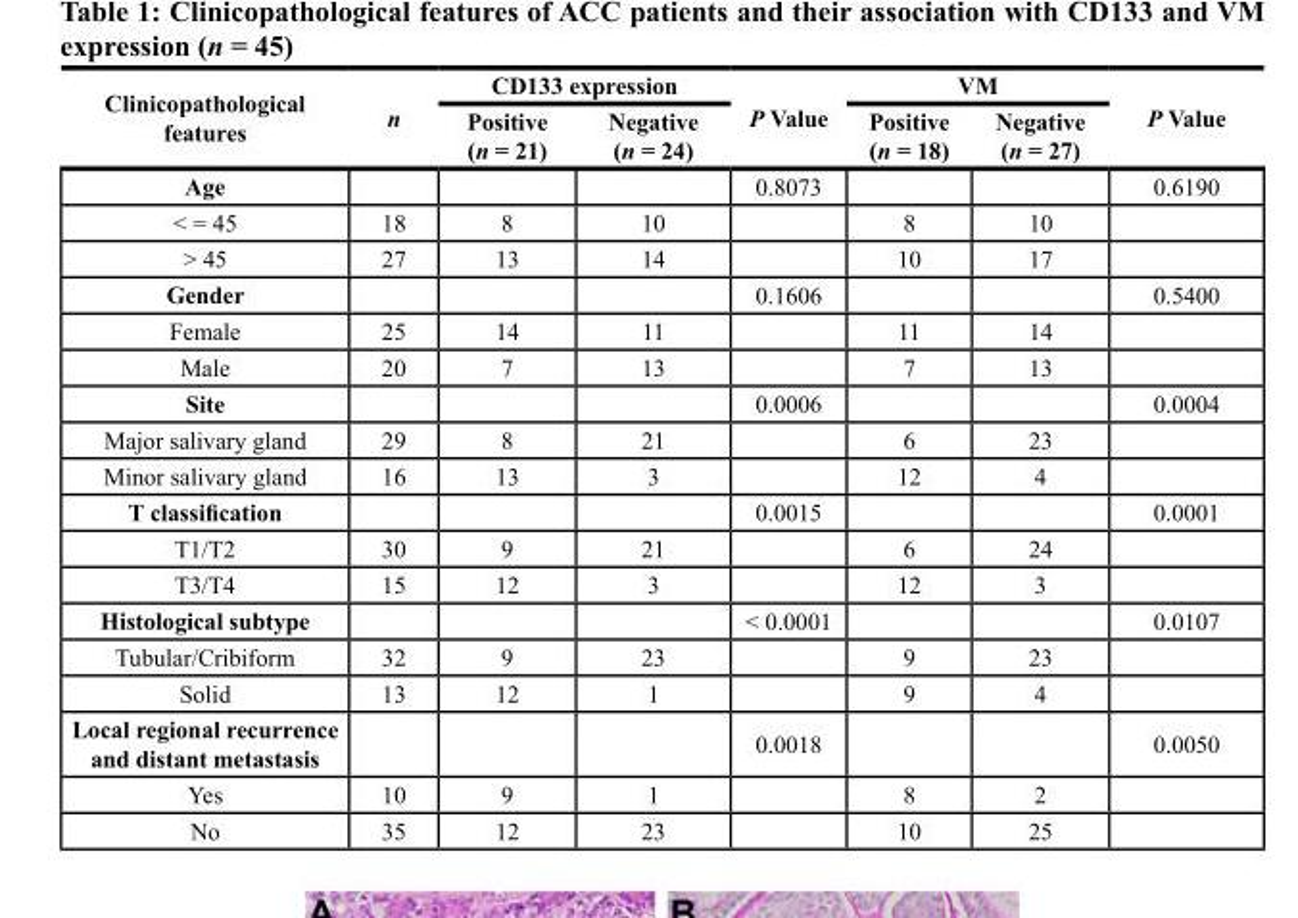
<table><thead><tr><td rowspan="2">Clinicopathological features</td><td rowspan="2">n</td><td colspan="2">CD133 expression</td><td rowspan="2">P Value</td><td colspan="2">VM</td><td rowspan="2">P Value</td></tr><tr><td>Positive (n = 21)</td><td>Negative (n = 24)</td><td>Positive (n = 18)</td><td>Negative (n = 27)</td></tr></thead><tbody><tr><td>Age</td><td></td><td></td><td></td><td>0.8073</td><td></td><td></td><td>0.6190</td></tr><tr><td>&lt; = 45</td><td>18</td><td>8</td><td>10</td><td></td><td>8</td><td>10</td><td></td></tr><tr><td>&gt; 45</td><td>27</td><td>13</td><td>14</td><td></td><td>10</td><td>17</td><td></td></tr><tr><td>Gender</td><td></td><td></td><td></td><td>0.1606</td><td></td><td></td><td>0.5400</td></tr><tr><td>Female</td><td>25</td><td>14</td><td>11</td><td></td><td>11</td><td>14</td><td></td></tr><tr><td>Male</td><td>20</td><td>7</td><td>13</td><td></td><td>7</td><td>13</td><td></td></tr><tr><td>Site</td><td></td><td></td><td></td><td>0.0006</td><td></td><td></td><td>0.0004</td></tr><tr><td>Major salivary gland</td><td>29</td><td>8</td><td>21</td><td></td><td>6</td><td>23</td><td></td></tr><tr><td>Minor salivary gland</td><td>16</td><td>13</td><td>3</td><td></td><td>12</td><td>4</td><td></td></tr><tr><td>T classification</td><td></td><td></td><td></td><td>0.0015</td><td></td><td></td><td>0.0001</td></tr><tr><td>T1/T2</td><td>30</td><td>9</td><td>21</td><td></td><td>6</td><td>24</td><td></td></tr><tr><td>T3/T4</td><td>15</td><td>12</td><td>3</td><td></td><td>12</td><td>3</td><td></td></tr><tr><td>Histological subtype</td><td></td><td></td><td></td><td>&lt; 0.0001</td><td></td><td></td><td>0.0107</td></tr><tr><td>Tubular/Cribiform</td><td>32</td><td>9</td><td>23</td><td></td><td>9</td><td>23</td><td></td></tr><tr><td>Solid</td><td>13</td><td>12</td><td>1</td><td></td><td>9</td><td>4</td><td></td></tr><tr><td>Local regional recurrence and distant metastasis</td><td></td><td></td><td></td><td>0.0018</td><td></td><td></td><td>0.0050</td></tr><tr><td>Yes</td><td>10</td><td>9</td><td>1</td><td></td><td>8</td><td>2</td><td></td></tr><tr><td>No</td><td>35</td><td>12</td><td>23</td><td></td><td>10</td><td>25</td><td></td></tr></tbody></table>